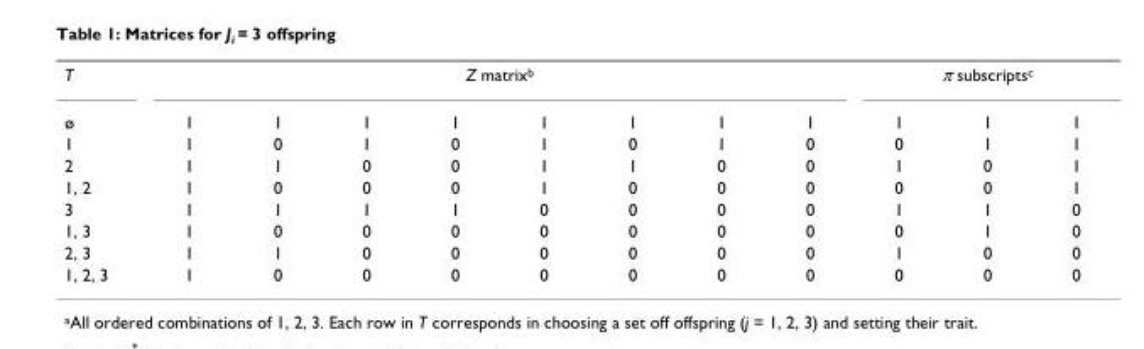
<table><tbody><tr><td>T</td><td colspan="8">Z matrixb</td><td colspan="3">π subscriptsc</td></tr><tr><td>ø</td><td>1</td><td>1</td><td>1</td><td>1</td><td>1</td><td>1</td><td>1</td><td>1</td><td>1</td><td>1</td><td>1</td></tr><tr><td>1</td><td>1</td><td>0</td><td>1</td><td>0</td><td>1</td><td>0</td><td>1</td><td>0</td><td>0</td><td>1</td><td>1</td></tr><tr><td>2</td><td>1</td><td>1</td><td>0</td><td>0</td><td>1</td><td>1</td><td>0</td><td>0</td><td>1</td><td>0</td><td>1</td></tr><tr><td>1, 2</td><td>1</td><td>0</td><td>0</td><td>0</td><td>1</td><td>0</td><td>0</td><td>0</td><td>0</td><td>0</td><td>1</td></tr><tr><td>3</td><td>1</td><td>1</td><td>1</td><td>1</td><td>0</td><td>0</td><td>0</td><td>0</td><td>1</td><td>1</td><td>0</td></tr><tr><td>1, 3</td><td>1</td><td>0</td><td>0</td><td>0</td><td>0</td><td>0</td><td>0</td><td>0</td><td>0</td><td>1</td><td>0</td></tr><tr><td>2, 3</td><td>1</td><td>1</td><td>0</td><td>0</td><td>0</td><td>0</td><td>0</td><td>0</td><td>1</td><td>0</td><td>0</td></tr><tr><td>1, 2, 3</td><td>1</td><td>0</td><td>0</td><td>0</td><td>0</td><td>0</td><td>0</td><td>0</td><td>0</td><td>0</td><td>0</td></tr></tbody></table>